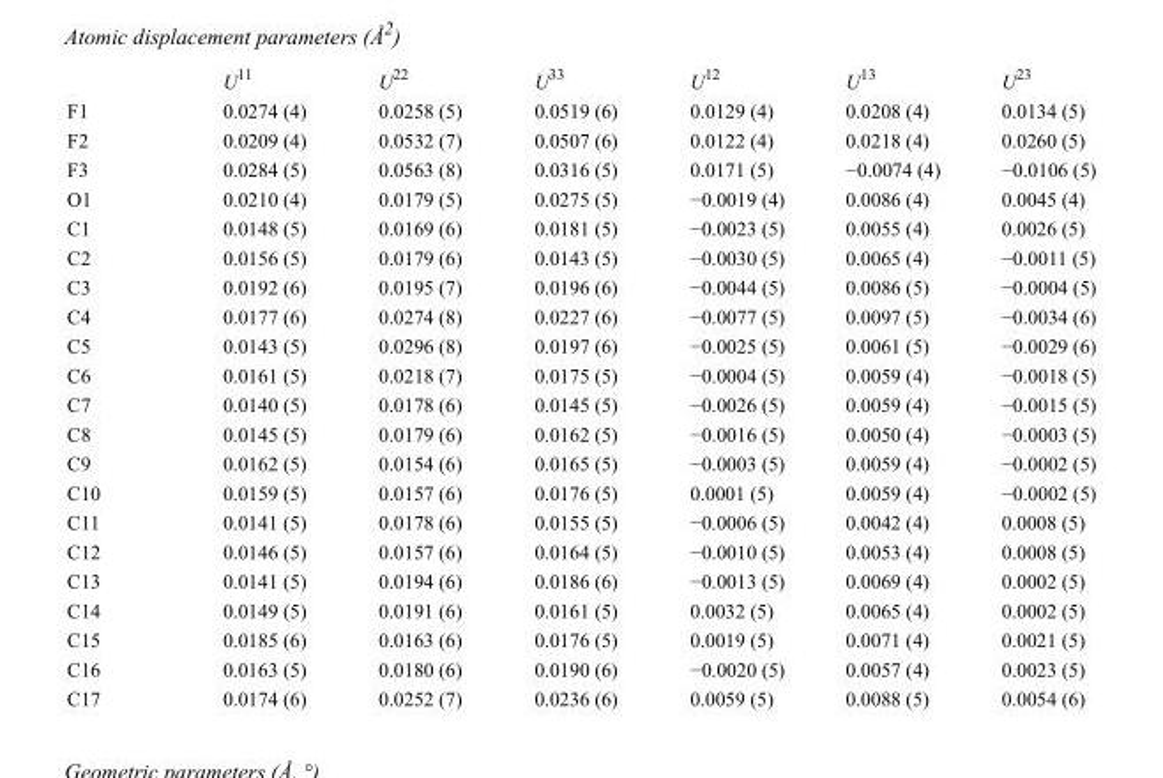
<table><thead><tr><td></td><td>U<sup>11</sup></td><td>U<sup>22</sup></td><td>U<sup>33</sup></td><td>U<sup>12</sup></td><td>U<sup>13</sup></td><td>U<sup>23</sup></td></tr></thead><tbody><tr><td>F1</td><td>0.0274 (4)</td><td>0.0258 (5)</td><td>0.0519 (6)</td><td>0.0129 (4)</td><td>0.0208 (4)</td><td>0.0134 (5)</td></tr><tr><td>F2</td><td>0.0209 (4)</td><td>0.0532 (7)</td><td>0.0507 (6)</td><td>0.0122 (4)</td><td>0.0218 (4)</td><td>0.0260 (5)</td></tr><tr><td>F3</td><td>0.0284 (5)</td><td>0.0563 (8)</td><td>0.0316 (5)</td><td>0.0171 (5)</td><td>−0.0074 (4)</td><td>−0.0106 (5)</td></tr><tr><td>O1</td><td>0.0210 (4)</td><td>0.0179 (5)</td><td>0.0275 (5)</td><td>−0.0019 (4)</td><td>0.0086 (4)</td><td>0.0045 (4)</td></tr><tr><td>C1</td><td>0.0148 (5)</td><td>0.0169 (6)</td><td>0.0181 (5)</td><td>−0.0023 (5)</td><td>0.0055 (4)</td><td>0.0026 (5)</td></tr><tr><td>C2</td><td>0.0156 (5)</td><td>0.0179 (6)</td><td>0.0143 (5)</td><td>−0.0030 (5)</td><td>0.0065 (4)</td><td>−0.0011 (5)</td></tr><tr><td>C3</td><td>0.0192 (6)</td><td>0.0195 (7)</td><td>0.0196 (6)</td><td>−0.0044 (5)</td><td>0.0086 (5)</td><td>−0.0004 (5)</td></tr><tr><td>C4</td><td>0.0177 (6)</td><td>0.0274 (8)</td><td>0.0227 (6)</td><td>−0.0077 (5)</td><td>0.0097 (5)</td><td>−0.0034 (6)</td></tr><tr><td>C5</td><td>0.0143 (5)</td><td>0.0296 (8)</td><td>0.0197 (6)</td><td>−0.0025 (5)</td><td>0.0061 (5)</td><td>−0.0029 (6)</td></tr><tr><td>C6</td><td>0.0161 (5)</td><td>0.0218 (7)</td><td>0.0175 (5)</td><td>−0.0004 (5)</td><td>0.0059 (4)</td><td>−0.0018 (5)</td></tr><tr><td>C7</td><td>0.0140 (5)</td><td>0.0178 (6)</td><td>0.0145 (5)</td><td>−0.0026 (5)</td><td>0.0059 (4)</td><td>−0.0015 (5)</td></tr><tr><td>C8</td><td>0.0145 (5)</td><td>0.0179 (6)</td><td>0.0162 (5)</td><td>−0.0016 (5)</td><td>0.0050 (4)</td><td>−0.0003 (5)</td></tr><tr><td>C9</td><td>0.0162 (5)</td><td>0.0154 (6)</td><td>0.0165 (5)</td><td>−0.0003 (5)</td><td>0.0059 (4)</td><td>−0.0002 (5)</td></tr><tr><td>C10</td><td>0.0159 (5)</td><td>0.0157 (6)</td><td>0.0176 (5)</td><td>0.0001 (5)</td><td>0.0059 (4)</td><td>−0.0002 (5)</td></tr><tr><td>C11</td><td>0.0141 (5)</td><td>0.0178 (6)</td><td>0.0155 (5)</td><td>−0.0006 (5)</td><td>0.0042 (4)</td><td>0.0008 (5)</td></tr><tr><td>C12</td><td>0.0146 (5)</td><td>0.0157 (6)</td><td>0.0164 (5)</td><td>−0.0010 (5)</td><td>0.0053 (4)</td><td>0.0008 (5)</td></tr><tr><td>C13</td><td>0.0141 (5)</td><td>0.0194 (6)</td><td>0.0186 (6)</td><td>−0.0013 (5)</td><td>0.0069 (4)</td><td>0.0002 (5)</td></tr><tr><td>C14</td><td>0.0149 (5)</td><td>0.0191 (6)</td><td>0.0161 (5)</td><td>0.0032 (5)</td><td>0.0065 (4)</td><td>0.0002 (5)</td></tr><tr><td>C15</td><td>0.0185 (6)</td><td>0.0163 (6)</td><td>0.0176 (5)</td><td>0.0019 (5)</td><td>0.0071 (4)</td><td>0.0021 (5)</td></tr><tr><td>C16</td><td>0.0163 (5)</td><td>0.0180 (6)</td><td>0.0190 (6)</td><td>−0.0020 (5)</td><td>0.0057 (4)</td><td>0.0023 (5)</td></tr><tr><td>C17</td><td>0.0174 (6)</td><td>0.0252 (7)</td><td>0.0236 (6)</td><td>0.0059 (5)</td><td>0.0088 (5)</td><td>0.0054 (6)</td></tr></tbody></table>